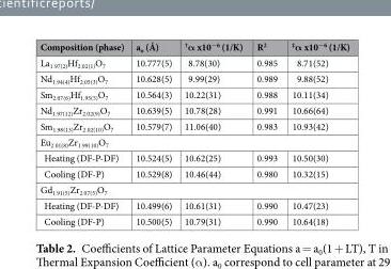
<table><thead><tr><td>Composition (phase)</td><td>a<sub>o</sub> (Å)</td><td><sup>†</sup>α x10<sup>−6</sup> (1/K)</td><td>R<sup>2</sup></td><td><sup>‡</sup>α x10<sup>−6</sup> (1/K)</td></tr></thead><tbody><tr><td>La<sub>1.97(2)</sub>Hf<sub>2.02(1)</sub>O<sub>7</sub></td><td>10.777(5)</td><td>8.78(30)</td><td>0.985</td><td>8.71(52)</td></tr><tr><td>Nd<sub>1.94(4)</sub>Hf<sub>2.05(3)</sub>O<sub>7</sub></td><td>10.628(5)</td><td>9.99(29)</td><td>0.989</td><td>9.88(52)</td></tr><tr><td>Sm<sub>2.07(6)</sub>Hf<sub>1.95(5)</sub>O<sub>7</sub></td><td>10.564(3)</td><td>10.22(31)</td><td>0.988</td><td>10.11(34)</td></tr><tr><td>Nd<sub>1.97(12)</sub>Zr<sub>2.02(9)</sub>O<sub>7</sub></td><td>10.639(5)</td><td>10.78(28)</td><td>0.991</td><td>10.66(64)</td></tr><tr><td>Sm<sub>1.98(13)</sub>Zr<sub>2.02(10)</sub>O<sub>7</sub></td><td>10.579(7)</td><td>11.06(40)</td><td>0.983</td><td>10.93(42)</td></tr><tr><td colspan="5">Eu<sub>2.01(8)</sub>Zr<sub>1.99(10)</sub>O<sub>7</sub></td></tr><tr><td>Heating (DF-P-DF)</td><td>10.524(5)</td><td>10.62(25)</td><td>0.993</td><td>10.50(30)</td></tr><tr><td>Cooling (DF-P)</td><td>10.529(8)</td><td>10.46(44)</td><td>0.980</td><td>10.32(15)</td></tr><tr><td colspan="5">Gd<sub>1.91(5)</sub>Zr<sub>2.07(5)</sub>O<sub>7</sub></td></tr><tr><td>Heating (DF-P-DF)</td><td>10.499(6)</td><td>10.61(31)</td><td>0.990</td><td>10.47(23)</td></tr><tr><td>Cooling (DF-P)</td><td>10.500(5)</td><td>10.79(31)</td><td>0.990</td><td>10.64(18)</td></tr></tbody></table>